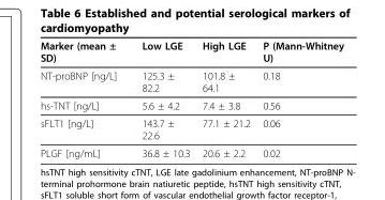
<table><thead><tr><td>Marker (mean ± SD)</td><td>Low LGE</td><td>High LGE</td><td>P (Mann-Whitney U)</td></tr></thead><tbody><tr><td>NT-proBNP [ng/L]</td><td>125.3 ± 82.2</td><td>101.8 ± 64.1</td><td>0.18</td></tr><tr><td>hs-TNT [ng/L]</td><td>5.6 ± 4.2</td><td>7.4 ± 3.8</td><td>0.56</td></tr><tr><td>sFLT1 [ng/L]</td><td>143.7 ± 22.6</td><td>77.1 ± 21.2</td><td>0.06</td></tr><tr><td>PLGF [ng/mL]</td><td>36.8 ± 10.3</td><td>20.6 ± 2.2</td><td>0.02</td></tr></tbody></table>